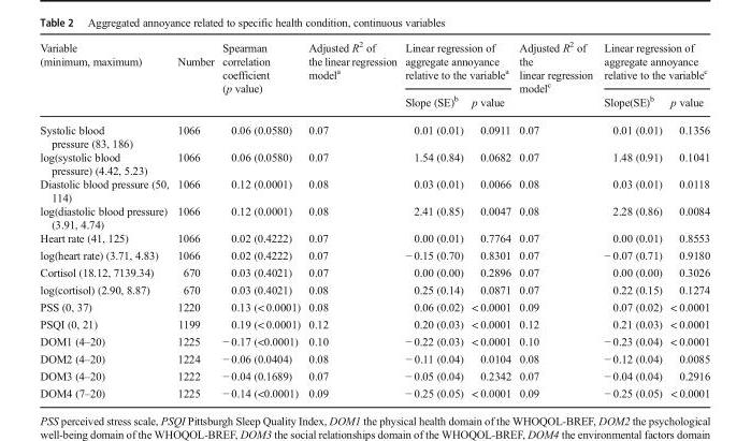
<table><thead><tr><td rowspan="2">Variable (minimum, maximum)</td><td rowspan="2">Number</td><td rowspan="2">Spearman correlation coefficient (p value)</td><td rowspan="2">Adjusted R<sup>2</sup> of the linear regression model<sup>a</sup></td><td colspan="2">Linear regression of aggregate annoyance relative to the variable<sup>a</sup></td><td rowspan="2">Adjusted R<sup>2</sup> of the linear regression model<sup>c</sup></td><td colspan="2">Linear regression of aggregate annoyance relative to the variable<sup>c</sup></td></tr><tr><td>Slope (SE)<sup>b</sup></td><td>p value</td><td>Slope(SE)<sup>b</sup></td><td>p value</td></tr></thead><tbody><tr><td>Systolic blood pressure (83, 186)</td><td>1066</td><td>0.06 (0.0580)</td><td>0.07</td><td>0.01 (0.01)</td><td>0.0911</td><td>0.07</td><td>0.01 (0.01)</td><td>0.1356</td></tr><tr><td>log(systolic blood pressure) (4.42, 5.23)</td><td>1066</td><td>0.06 (0.0580)</td><td>0.07</td><td>1.54 (0.84)</td><td>0.0682</td><td>0.07</td><td>1.48 (0.91)</td><td>0.1041</td></tr><tr><td>Diastolic blood pressure (50, 114)</td><td>1066</td><td>0.12 (0.0001)</td><td>0.08</td><td>0.03 (0.01)</td><td>0.0066</td><td>0.08</td><td>0.03 (0.01)</td><td>0.0118</td></tr><tr><td>log(diastolic blood pressure) (3.91, 4.74)</td><td>1066</td><td>0.12 (0.0001)</td><td>0.08</td><td>2.41 (0.85)</td><td>0.0047</td><td>0.08</td><td>2.28 (0.86)</td><td>0.0084</td></tr><tr><td>Heart rate (41, 125)</td><td>1066</td><td>0.02 (0.4222)</td><td>0.07</td><td>0.00 (0.01)</td><td>0.7764</td><td>0.07</td><td>0.00 (0.01)</td><td>0.8553</td></tr><tr><td>log(heart rate) (3.71, 4.83)</td><td>1066</td><td>0.02 (0.4222)</td><td>0.07</td><td>− 0.15 (0.70)</td><td>0.8301</td><td>0.07</td><td>− 0.07 (0.71)</td><td>0.9180</td></tr><tr><td>Cortisol (18.12, 7139.34)</td><td>670</td><td>0.03 (0.4021)</td><td>0.07</td><td>0.00 (0.00)</td><td>0.2896</td><td>0.07</td><td>0.00 (0.00)</td><td>0.3026</td></tr><tr><td>log(cortisol) (2.90, 8.87)</td><td>670</td><td>0.03 (0.4021)</td><td>0.08</td><td>0.25 (0.14)</td><td>0.0871</td><td>0.07</td><td>0.22 (0.15)</td><td>0.1274</td></tr><tr><td>PSS (0, 37)</td><td>1220</td><td>0.13 (&lt; 0.0001)</td><td>0.08</td><td>0.06 (0.02)</td><td>&lt; 0.0001</td><td>0.09</td><td>0.07 (0.02)</td><td>&lt; 0.0001</td></tr><tr><td>PSQI (0, 21)</td><td>1199</td><td>0.19 (&lt; 0.0001)</td><td>0.12</td><td>0.20 (0.03)</td><td>&lt; 0.0001</td><td>0.12</td><td>0.21 (0.03)</td><td>&lt; 0.0001</td></tr><tr><td>DOM1 (4–20)</td><td>1225</td><td>− 0.17 (&lt;0.0001)</td><td>0.10</td><td>− 0.22 (0.03)</td><td>&lt; 0.0001</td><td>0.10</td><td>− 0.23 (0.04)</td><td>&lt; 0.0001</td></tr><tr><td>DOM2 (4–20)</td><td>1224</td><td>− 0.06 (0.0404)</td><td>0.08</td><td>− 0.11 (0.04)</td><td>0.0104</td><td>0.08</td><td>− 0.12 (0.04)</td><td>0.0085</td></tr><tr><td>DOM3 (4–20)</td><td>1222</td><td>− 0.04 (0.1689)</td><td>0.07</td><td>− 0.05 (0.04)</td><td>0.2342</td><td>0.07</td><td>− 0.04 (0.04)</td><td>0.2916</td></tr><tr><td>DOM4 (7–20)</td><td>1225</td><td>− 0.14 (&lt;0.0001)</td><td>0.09</td><td>− 0.25 (0.05)</td><td>&lt; 0.0001</td><td>0.09</td><td>− 0.25 (0.05)</td><td>&lt; 0.0001</td></tr></tbody></table>